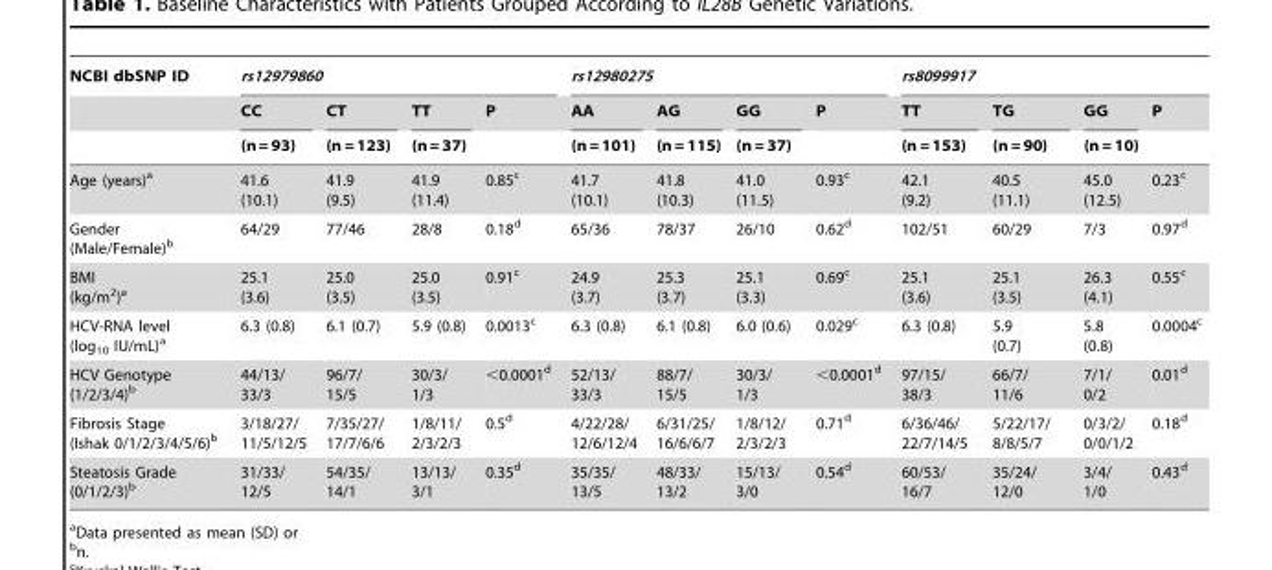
<table><thead><tr><td rowspan="3">NCBI dbSNP ID</td><td colspan="4">rs12979860</td><td colspan="4">rs12980275</td><td colspan="4">rs8099917</td></tr><tr><td rowspan="2">CC (n = 93)</td><td rowspan="2">CT (n = 123)</td><td rowspan="2">TT (n = 37)</td><td rowspan="2">P</td><td rowspan="2">AA (n = 101)</td><td rowspan="2">AG (n = 115)</td><td rowspan="2">GG (n = 37)</td><td rowspan="2">P</td><td rowspan="2">TT (n = 153)</td><td rowspan="2">TG (n = 90)</td><td rowspan="2">GG (n = 10)</td><td rowspan="2">P</td></tr><tr></tr></thead><tbody><tr><td>Age (years)<sup>a</sup></td><td>41.6 (10.1)</td><td>41.9 (9.5)</td><td>41.9 (11.4)</td><td>0.85<sup>c</sup></td><td>41.7 (10.1)</td><td>41.8 (10.3)</td><td>41.0 (11.5)</td><td>0.93<sup>c</sup></td><td>42.1 (9.2)</td><td>40.5 (11.1)</td><td>45.0 (12.5)</td><td>0.23<sup>c</sup></td></tr><tr><td>Gender (Male/Female)<sup>b</sup></td><td>64/29</td><td>77/46</td><td>28/8</td><td>0.18<sup>d</sup></td><td>65/36</td><td>78/37</td><td>26/10</td><td>0.62<sup>d</sup></td><td>102/51</td><td>60/29</td><td>7/3</td><td>0.97<sup>d</sup></td></tr><tr><td>BMI (kg/m<sup>2</sup>)<sup>a</sup></td><td>25.1 (3.6)</td><td>25.0 (3.5)</td><td>25.0 (3.5)</td><td>0.91<sup>c</sup></td><td>24.9 (3.7)</td><td>25.3 (3.7)</td><td>25.1 (3.3)</td><td>0.69<sup>c</sup></td><td>25.1 (3.6)</td><td>25.1 (3.5)</td><td>26.3 (4.1)</td><td>0.55<sup>c</sup></td></tr><tr><td>HCV-RNA level (log<sub>10</sub> IU/mL)<sup>a</sup></td><td>6.3 (0.8)</td><td>6.1 (0.7)</td><td>5.9 (0.8)</td><td>0.0013<sup>c</sup></td><td>6.3 (0.8)</td><td>6.1 (0.8)</td><td>6.0 (0.6)</td><td>0.029<sup>c</sup></td><td>6.3 (0.8)</td><td>5.9 (0.7)</td><td>5.8 (0.8)</td><td>0.0004<sup>c</sup></td></tr><tr><td>HCV Genotype (1/2/3/4)<sup>b</sup></td><td>44/13/ 33/3</td><td>96/7/ 15/5</td><td>30/3/ 1/3</td><td>&lt;0.0001<sup>d</sup></td><td>52/13/ 33/3</td><td>88/7/ 15/5</td><td>30/3/ 1/3</td><td>&lt;0.0001<sup>d</sup></td><td>97/15/ 38/3</td><td>66/7/ 11/6</td><td>7/1/ 0/2</td><td>0.01<sup>d</sup></td></tr><tr><td>Fibrosis Stage (Ishak 0/1/2/3/4/5/6)<sup>b</sup></td><td>3/18/27/ 11/5/12/5</td><td>7/35/27/ 17/7/6/6</td><td>1/8/11/ 2/3/2/3</td><td>0.5<sup>d</sup></td><td>4/22/28/ 12/6/12/4</td><td>6/31/25/ 16/6/6/7</td><td>1/8/12/ 2/3/2/3</td><td>0.71<sup>d</sup></td><td>6/36/46/ 22/7/14/5</td><td>5/22/17/ 8/8/5/7</td><td>0/3/2/ 0/0/1/2</td><td>0.18<sup>d</sup></td></tr><tr><td>Steatosis Grade (0/1/2/3)<sup>b</sup></td><td>31/33/ 12/5</td><td>54/35/ 14/1</td><td>13/13/ 3/1</td><td>0.35<sup>d</sup></td><td>35/35/ 13/5</td><td>48/33/ 13/2</td><td>15/13/ 3/0</td><td>0.54<sup>d</sup></td><td>60/53/ 16/7</td><td>35/24/ 12/0</td><td>3/4/ 1/0</td><td>0.43<sup>d</sup></td></tr></tbody></table>